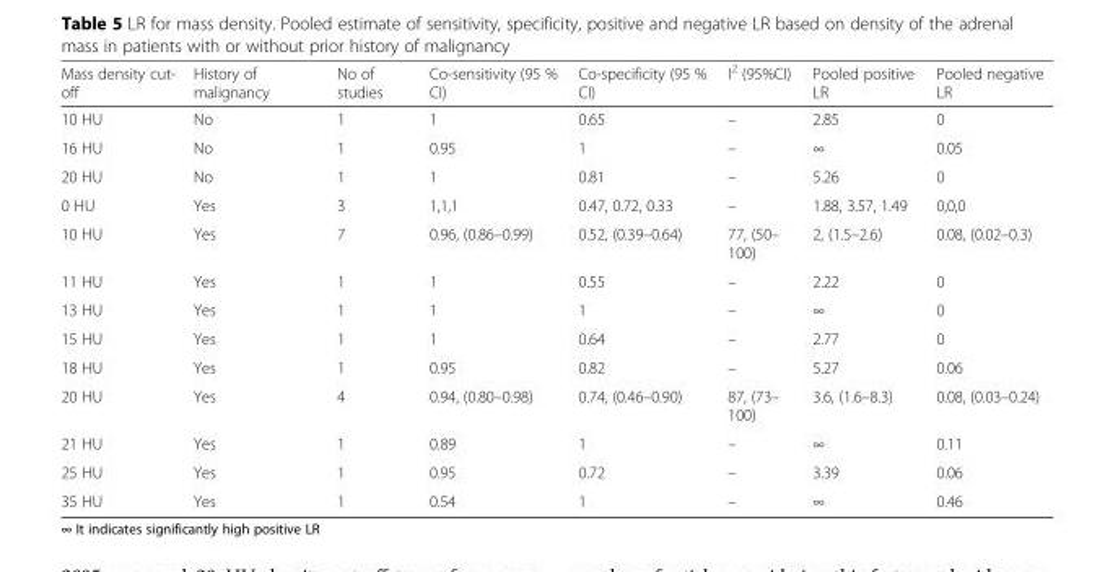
<table><thead><tr><td>Mass density cut- off</td><td>History of malignancy</td><td>No of studies</td><td>Co-sensitivity (95 % CI)</td><td>Co-specificity (95 % CI)</td><td>I<sup>2</sup> (95%CI)</td><td>Pooled positive LR</td><td>Pooled negative LR</td></tr></thead><tbody><tr><td>10 HU</td><td>No</td><td>1</td><td>1</td><td>0.65</td><td>–</td><td>2.85</td><td>0</td></tr><tr><td>16 HU</td><td>No</td><td>1</td><td>0.95</td><td>1</td><td>–</td><td>∞</td><td>0.05</td></tr><tr><td>20 HU</td><td>No</td><td>1</td><td>1</td><td>0.81</td><td>–</td><td>5.26</td><td>0</td></tr><tr><td>0 HU</td><td>Yes</td><td>3</td><td>1,1,1</td><td>0.47, 0.72, 0.33</td><td>–</td><td>1.88, 3.57, 1.49</td><td>0,0,0</td></tr><tr><td>10 HU</td><td>Yes</td><td>7</td><td>0.96, (0.86–0.99)</td><td>0.52, (0.39–0.64)</td><td>77, (50– 100)</td><td>2, (1.5–2.6)</td><td>0.08, (0.02–0.3)</td></tr><tr><td>11 HU</td><td>Yes</td><td>1</td><td>1</td><td>0.55</td><td>–</td><td>2.22</td><td>0</td></tr><tr><td>13 HU</td><td>Yes</td><td>1</td><td>1</td><td>1</td><td>–</td><td>∞</td><td>0</td></tr><tr><td>15 HU</td><td>Yes</td><td>1</td><td>1</td><td>0.64</td><td>–</td><td>2.77</td><td>0</td></tr><tr><td>18 HU</td><td>Yes</td><td>1</td><td>0.95</td><td>0.82</td><td>–</td><td>5.27</td><td>0.06</td></tr><tr><td>20 HU</td><td>Yes</td><td>4</td><td>0.94, (0.80–0.98)</td><td>0.74, (0.46–0.90)</td><td>87, (73– 100)</td><td>3.6, (1.6–8.3)</td><td>0.08, (0.03–0.24)</td></tr><tr><td>21 HU</td><td>Yes</td><td>1</td><td>0.89</td><td>1</td><td>–</td><td>∞</td><td>0.11</td></tr><tr><td>25 HU</td><td>Yes</td><td>1</td><td>0.95</td><td>0.72</td><td>–</td><td>3.39</td><td>0.06</td></tr><tr><td>35 HU</td><td>Yes</td><td>1</td><td>0.54</td><td>1</td><td>–</td><td>∞</td><td>0.46</td></tr></tbody></table>